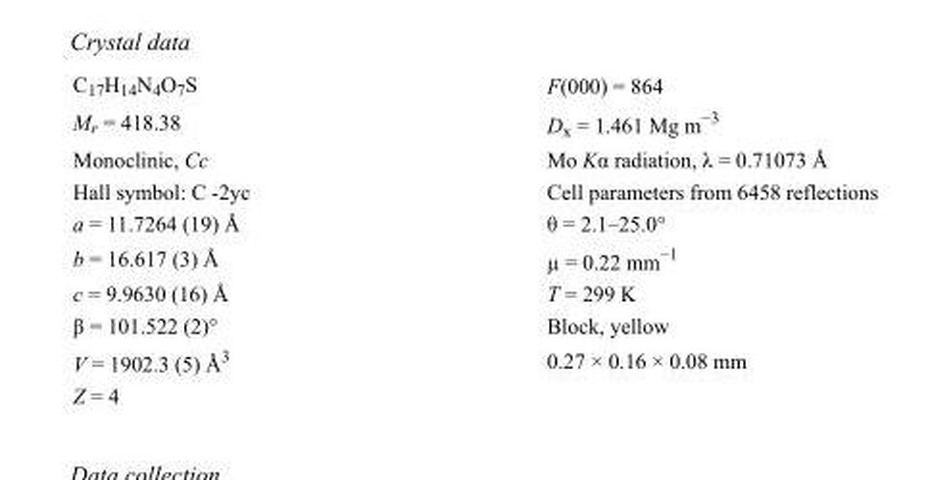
<table><tbody><tr><td>C<sub>17</sub>H<sub>14</sub>N<sub>4</sub>O<sub>7</sub>S</td><td>F(000) = 864</td></tr><tr><td>M<sub>r</sub> = 418.38</td><td>D<sub>x</sub> = 1.461 Mg m<sup>−3</sup></td></tr><tr><td>Monoclinic, Cc</td><td>Mo Kα radiation, λ = 0.71073 Å</td></tr><tr><td>Hall symbol: C -2yc</td><td>Cell parameters from 6458 reflections</td></tr><tr><td>a = 11.7264 (19) Å</td><td>θ = 2.1–25.0°</td></tr><tr><td>b = 16.617 (3) Å</td><td>µ = 0.22 mm<sup>−1</sup></td></tr><tr><td>c = 9.9630 (16) Å</td><td>T = 299 K</td></tr><tr><td>β = 101.522 (2)°</td><td>Block, yellow</td></tr><tr><td>V = 1902.3 (5) Å<sup>3</sup></td><td>0.27 × 0.16 × 0.08 mm</td></tr><tr><td>Z = 4</td><td></td></tr></tbody></table>